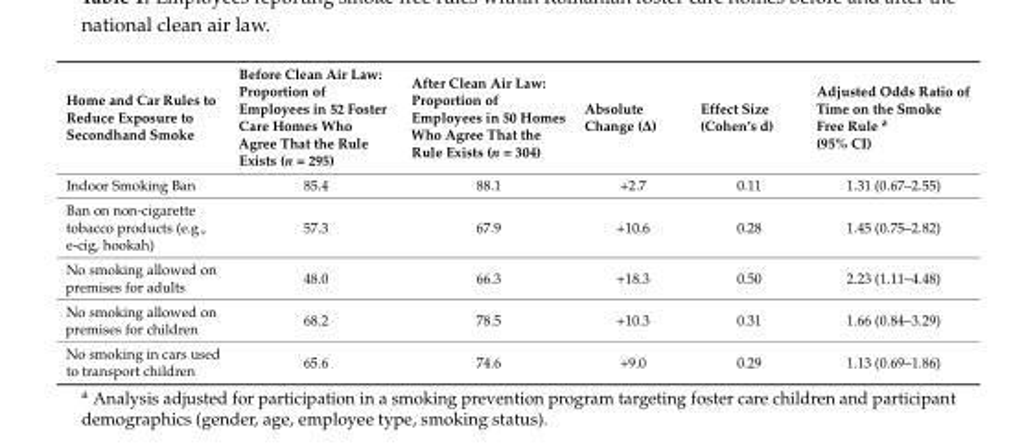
<table><thead><tr><td>Home and Car Rules to Reduce Exposure to Secondhand Smoke</td><td>Before Clean Air Law: Proportion of Employees in 52 Foster Care Homes Who Agree That the Rule Exists (n = 295)</td><td>After Clean Air Law: Proportion of Employees in 50 Homes Who Agree That the Rule Exists (n = 304)</td><td>Absolute Change (∆)</td><td>Effect Size (Cohen’s d)</td><td>Adjusted Odds Ratio of Time on the Smoke Free Rule <sup>a</sup> (95% CI)</td></tr></thead><tbody><tr><td>Indoor Smoking Ban</td><td>85.4</td><td>88.1</td><td>+2.7</td><td>0.11</td><td>1.31 (0.67–2.55)</td></tr><tr><td>Ban on non-cigarette tobacco products (e.g., e-cig, hookah)</td><td>57.3</td><td>67.9</td><td>+10.6</td><td>0.28</td><td>1.45 (0.75–2.82)</td></tr><tr><td>No smoking allowed on premises for adults</td><td>48.0</td><td>66.3</td><td>+18.3</td><td>0.50</td><td>2.23 (1.11–4.48)</td></tr><tr><td>No smoking allowed on premises for children</td><td>68.2</td><td>78.5</td><td>+10.3</td><td>0.31</td><td>1.66 (0.84–3.29)</td></tr><tr><td>No smoking in cars used to transport children</td><td>65.6</td><td>74.6</td><td>+9.0</td><td>0.29</td><td>1.13 (0.69–1.86)</td></tr></tbody></table>